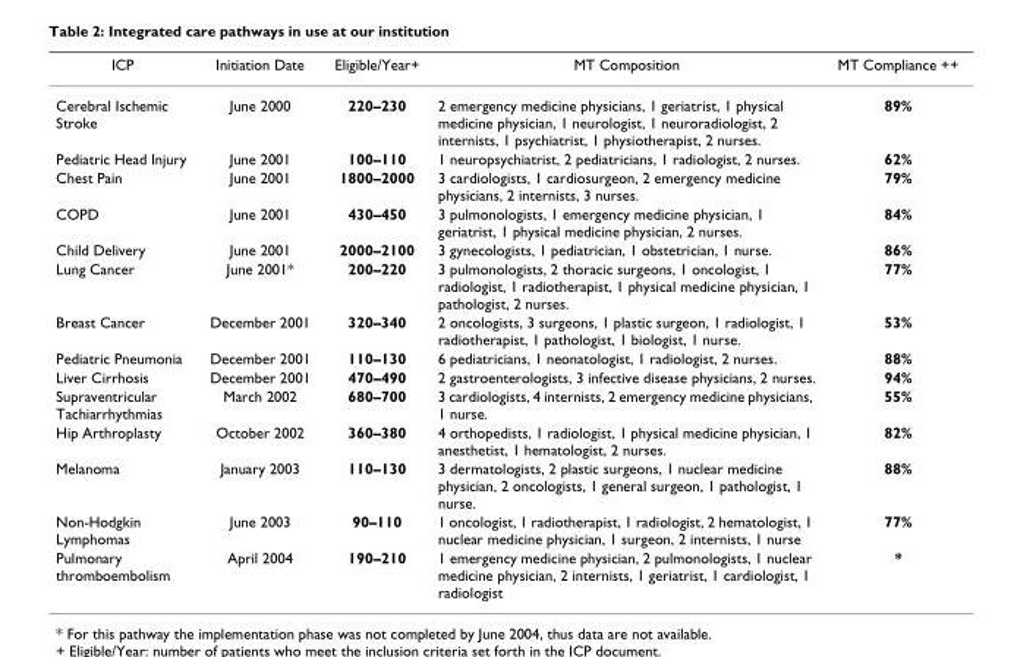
<table><thead><tr><td>ICP</td><td>Initiation Date</td><td>Eligible/Year+</td><td>MT Composition</td><td>MT Compliance ++</td></tr></thead><tbody><tr><td>Cerebral Ischemic Stroke</td><td>June 2000</td><td>220–230</td><td>2 emergency medicine physicians, 1 geriatrist, 1 physical medicine physician, 1 neurologist, 1 neuroradiologist, 2 internists, 1 psychiatrist, 1 physiotherapist, 2 nurses.</td><td>89%</td></tr><tr><td>Pediatric Head Injury</td><td>June 2001</td><td>100–110</td><td>1 neuropsychiatrist, 2 pediatricians, 1 radiologist, 2 nurses.</td><td>62%</td></tr><tr><td>Chest Pain</td><td>June 2001</td><td>1800–2000</td><td>3 cardiologists, 1 cardiosurgeon, 2 emergency medicine physicians, 2 internists, 3 nurses.</td><td>79%</td></tr><tr><td>COPD</td><td>June 2001</td><td>430–450</td><td>3 pulmonologists, 1 emergency medicine physician, 1 geriatrist, 1 physical medicine physician, 2 nurses.</td><td>84%</td></tr><tr><td>Child Delivery</td><td>June 2001</td><td>2000–2100</td><td>3 gynecologists, 1 pediatrician, 1 obstetrician, 1 nurse.</td><td>86%</td></tr><tr><td>Lung Cancer</td><td>June 2001*</td><td>200–220</td><td>3 pulmonologists, 2 thoracic surgeons, 1 oncologist, 1 radiologist, 1 radiotherapist, 1 physical medicine physician, 1 pathologist, 2 nurses.</td><td>77%</td></tr><tr><td>Breast Cancer</td><td>December 2001</td><td>320–340</td><td>2 oncologists, 3 surgeons, 1 plastic surgeon, 1 radiologist, 1 radiotherapist, 1 pathologist, 1 biologist, 1 nurse.</td><td>53%</td></tr><tr><td>Pediatric Pneumonia</td><td>December 2001</td><td>110–130</td><td>6 pediatricians, 1 neonatologist, 1 radiologist, 2 nurses.</td><td>88%</td></tr><tr><td>Liver Cirrhosis</td><td>December 2001</td><td>470–490</td><td>2 gastroenterologists, 3 infective disease physicians, 2 nurses.</td><td>94%</td></tr><tr><td>Supraventricular Tachiarrhythmias</td><td>March 2002</td><td>680–700</td><td>3 cardiologists, 4 internists, 2 emergency medicine physicians, 1 nurse.</td><td>55%</td></tr><tr><td>Hip Arthroplasty</td><td>October 2002</td><td>360–380</td><td>4 orthopedists, 1 radiologist, 1 physical medicine physician, 1 anesthetist, 1 hematologist, 2 nurses.</td><td>82%</td></tr><tr><td>Melanoma</td><td>January 2003</td><td>110–130</td><td>3 dermatologists, 2 plastic surgeons, 1 nuclear medicine physician, 2 oncologists, 1 general surgeon, 1 pathologist, 1 nurse.</td><td>88%</td></tr><tr><td>Non-Hodgkin Lymphomas</td><td>June 2003</td><td>90–110</td><td>1 oncologist, 1 radiotherapist, 1 radiologist, 2 hematologist, 1 nuclear medicine physician, 1 surgeon, 2 internists, 1 nurse</td><td>77%</td></tr><tr><td>Pulmonary thromboembolism</td><td>April 2004</td><td>190–210</td><td>1 emergency medicine physician, 2 pulmonologists, 1 nuclear medicine physician, 2 internists, 1 geriatrist, 1 cardiologist, 1 radiologist</td><td>*</td></tr></tbody></table>